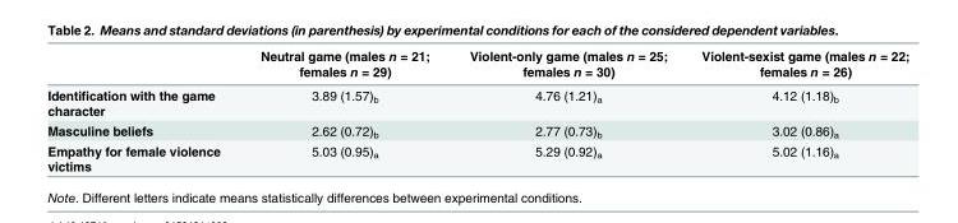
<table><thead><tr><td></td><td>Neutral game (males n = 21; females n = 29)</td><td>Violent-only game (males n = 25; females n = 30)</td><td>Violent-sexist game (males n = 22; females n = 26)</td></tr></thead><tbody><tr><td>Identification with the game character</td><td>3.89 (1.57)<sub>b</sub></td><td>4.76 (1.21)<sub>a</sub></td><td>4.12 (1.18)<sub>b</sub></td></tr><tr><td>Masculine beliefs</td><td>2.62 (0.72)<sub>b</sub></td><td>2.77 (0.73)<sub>b</sub></td><td>3.02 (0.86)<sub>a</sub></td></tr><tr><td>Empathy for female violence victims</td><td>5.03 (0.95)<sub>a</sub></td><td>5.29 (0.92)<sub>a</sub></td><td>5.02 (1.16)<sub>a</sub></td></tr></tbody></table>